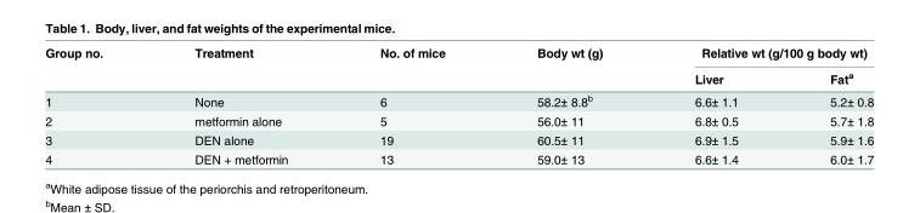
<table><thead><tr><td rowspan="2">Group no.</td><td rowspan="2">Treatment</td><td rowspan="2">No. of mice</td><td rowspan="2">Body wt (g)</td><td colspan="2">Relative wt (g/100 g body wt)</td></tr><tr><td>Liver</td><td>Fat<sup>a</sup></td></tr></thead><tbody><tr><td>1</td><td>None</td><td>6</td><td>58.2± 8.8<sup>b</sup></td><td>6.6± 1.1</td><td>5.2± 0.8</td></tr><tr><td>2</td><td>metformin alone</td><td>5</td><td>56.0± 11</td><td>6.8± 0.5</td><td>5.7± 1.8</td></tr><tr><td>3</td><td>DEN alone</td><td>19</td><td>60.5± 11</td><td>6.9± 1.5</td><td>5.9± 1.6</td></tr><tr><td>4</td><td>DEN + metformin</td><td>13</td><td>59.0± 13</td><td>6.6± 1.4</td><td>6.0± 1.7</td></tr></tbody></table>